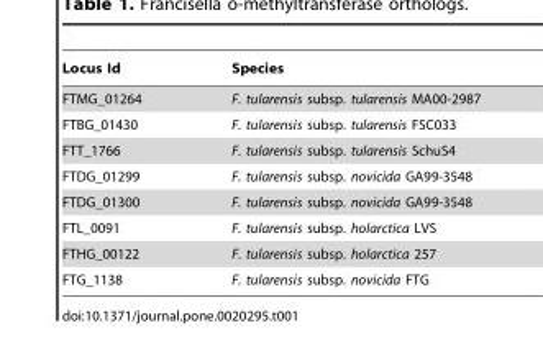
<table><thead><tr><td>Locus Id</td><td>Species</td></tr></thead><tbody><tr><td>FTMG_01264</td><td>F. tularensis subsp. tularensis MA00-2987</td></tr><tr><td>FTBG_01430</td><td>F. tularensis subsp. tularensis FSC033</td></tr><tr><td>FTT_1766</td><td>F. tularensis subsp. tularensis SchuS4</td></tr><tr><td>FTDG_01299</td><td>F. tularensis subsp. novicida GA99-3548</td></tr><tr><td>FTDG_01300</td><td>F. tularensis subsp. novicida GA99-3548</td></tr><tr><td>FTL_0091</td><td>F. tularensis subsp. holarctica LVS</td></tr><tr><td>FTHG_00122</td><td>F. tularensis subsp. holarctica 257</td></tr><tr><td>FTG_1138</td><td>F. tularensis subsp. novicida FTG</td></tr></tbody></table>